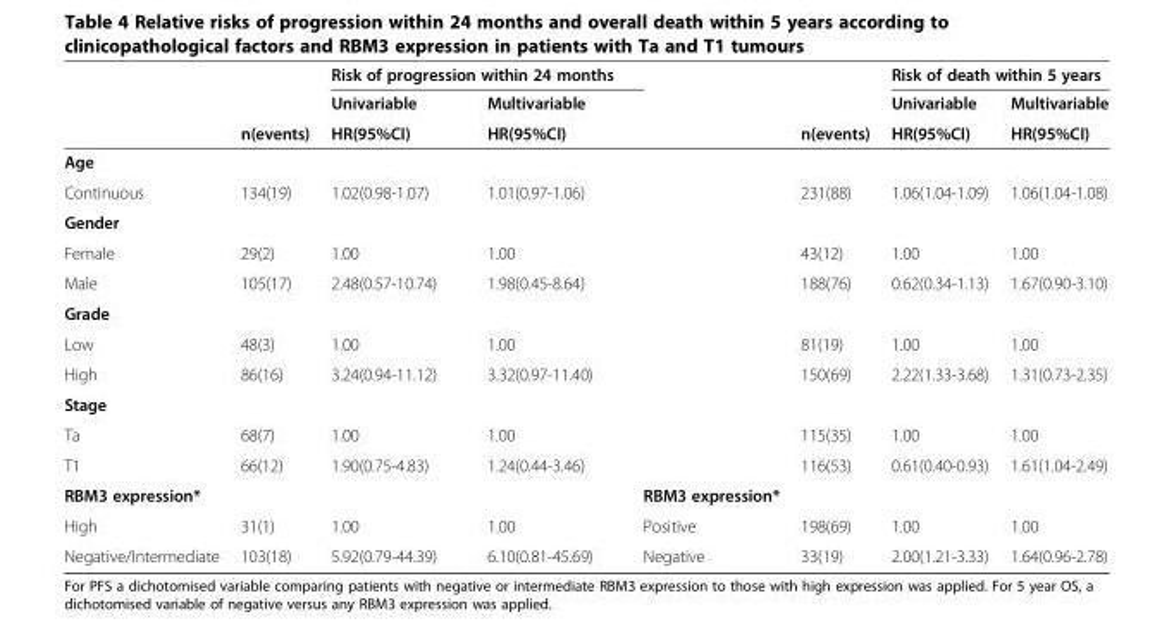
<table><thead><tr><td rowspan="2"></td><td rowspan="2"></td><td colspan="2">Risk of progression within 24 months</td><td rowspan="2"></td><td rowspan="2"></td><td colspan="2">Risk of death within 5 years</td></tr><tr><td>Univariable</td><td>Multivariable</td><td>Univariable</td><td>Multivariable</td></tr></thead><tbody><tr><td></td><td>n(events)</td><td>HR(95%CI)</td><td>HR(95%CI)</td><td></td><td>n(events)</td><td>HR(95%CI)</td><td>HR(95%CI)</td></tr><tr><td colspan="8">Age</td></tr><tr><td>Continuous</td><td>134(19)</td><td>1.02(0.98-1.07)</td><td>1.01(0.97-1.06)</td><td></td><td>231(88)</td><td>1.06(1.04-1.09)</td><td>1.06(1.04-1.08)</td></tr><tr><td colspan="8">Gender</td></tr><tr><td>Female</td><td>29(2)</td><td>1.00</td><td>1.00</td><td></td><td>43(12)</td><td>1.00</td><td>1.00</td></tr><tr><td>Male</td><td>105(17)</td><td>2.48(0.57-10.74)</td><td>1.98(0.45-8.64)</td><td></td><td>188(76)</td><td>0.62(0.34-1.13)</td><td>1.67(0.90-3.10)</td></tr><tr><td colspan="8">Grade</td></tr><tr><td>Low</td><td>48(3)</td><td>1.00</td><td>1.00</td><td></td><td>81(19)</td><td>1.00</td><td>1.00</td></tr><tr><td>High</td><td>86(16)</td><td>3.24(0.94-11.12)</td><td>3.32(0.97-11.40)</td><td></td><td>150(69)</td><td>2.22(1.33-3.68)</td><td>1.31(0.73-2.35)</td></tr><tr><td colspan="8">Stage</td></tr><tr><td>Ta</td><td>68(7)</td><td>1.00</td><td>1.00</td><td></td><td>115(35)</td><td>1.00</td><td>1.00</td></tr><tr><td>T1</td><td>66(12)</td><td>1.90(0.75-4.83)</td><td>1.24(0.44-3.46)</td><td></td><td>116(53)</td><td>0.61(0.40-0.93)</td><td>1.61(1.04-2.49)</td></tr><tr><td>RBM3 expression*</td><td></td><td></td><td></td><td>RBM3 expression*</td><td></td><td></td><td></td></tr><tr><td>High</td><td>31(1)</td><td>1.00</td><td>1.00</td><td>Positive</td><td>198(69)</td><td>1.00</td><td>1.00</td></tr><tr><td>Negative/Intermediate</td><td>103(18)</td><td>5.92(0.79-44.39)</td><td>6.10(0.81-45.69)</td><td>Negative</td><td>33(19)</td><td>2.00(1.21-3.33)</td><td>1.64(0.96-2.78)</td></tr></tbody></table>